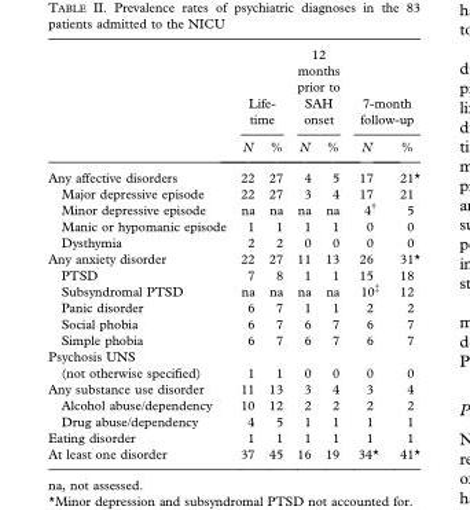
<table><thead><tr><td rowspan="2"></td><td colspan="2">Life- time</td><td colspan="2">12 months prior to SAH onset</td><td colspan="2">7-month follow-up</td></tr><tr><td>N</td><td>%</td><td>N</td><td>%</td><td>N</td><td>%</td></tr></thead><tbody><tr><td>Any affective disorders</td><td>22</td><td>27</td><td>4</td><td>5</td><td>17</td><td>21*</td></tr><tr><td>Major depressive episode</td><td>22</td><td>27</td><td>3</td><td>4</td><td>17</td><td>21</td></tr><tr><td>Minor depressive episode</td><td>na</td><td>na</td><td>na</td><td>na</td><td>4†</td><td>5</td></tr><tr><td>Manic or hypomanic episode</td><td>1</td><td>1</td><td>1</td><td>1</td><td>0</td><td>0</td></tr><tr><td>Dysthymia</td><td>2</td><td>2</td><td>0</td><td>0</td><td>0</td><td>0</td></tr><tr><td>Any anxiety disorder</td><td>22</td><td>27</td><td>11</td><td>13</td><td>26</td><td>31*</td></tr><tr><td>PTSD</td><td>7</td><td>8</td><td>1</td><td>1</td><td>15</td><td>18</td></tr><tr><td>Subsyndromal PTSD</td><td>na</td><td>na</td><td>na</td><td>na</td><td>10‡</td><td>12</td></tr><tr><td>Panic disorder</td><td>6</td><td>7</td><td>1</td><td>1</td><td>2</td><td>2</td></tr><tr><td>Social phobia</td><td>6</td><td>7</td><td>6</td><td>7</td><td>6</td><td>7</td></tr><tr><td>Simple phobia</td><td>6</td><td>7</td><td>6</td><td>7</td><td>6</td><td>7</td></tr><tr><td>Psychosis UNS (not otherwise specified)</td><td>1</td><td>1</td><td>0</td><td>0</td><td>0</td><td>0</td></tr><tr><td>Any substance use disorder</td><td>11</td><td>13</td><td>3</td><td>4</td><td>3</td><td>4</td></tr><tr><td>Alcohol abuse/dependency</td><td>10</td><td>12</td><td>2</td><td>2</td><td>2</td><td>2</td></tr><tr><td>Drug abuse/dependency</td><td>4</td><td>5</td><td>1</td><td>1</td><td>1</td><td>1</td></tr><tr><td>Eating disorder</td><td>1</td><td>1</td><td>1</td><td>1</td><td>1</td><td>1</td></tr><tr><td>At least one disorder</td><td>37</td><td>45</td><td>16</td><td>19</td><td>34*</td><td>41*</td></tr></tbody></table>